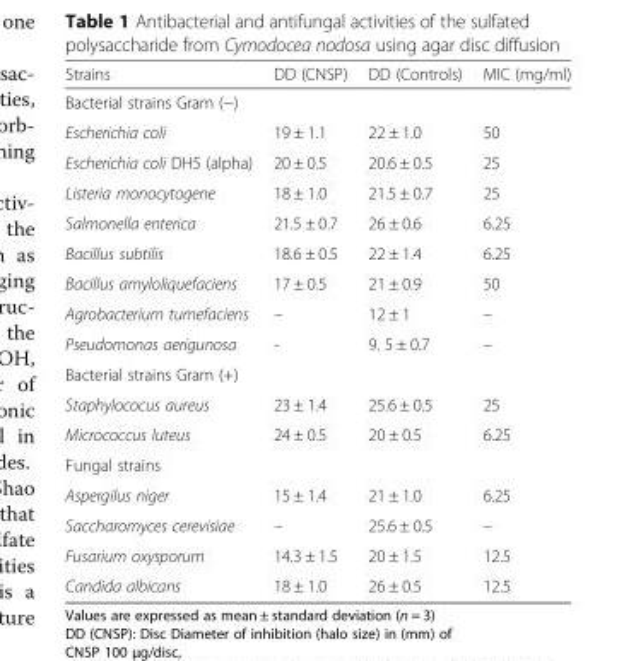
<table><thead><tr><td>Strains</td><td>DD (CNSP)</td><td>DD (Controls)</td><td>MIC (mg/ml)</td></tr></thead><tbody><tr><td colspan="4">Bacterial strains Gram (−)</td></tr><tr><td>Escherichia coli</td><td>19 ± 1.1</td><td>22 ± 1.0</td><td>50</td></tr><tr><td>Escherichia coli DH5 (alpha)</td><td>20 ± 0.5</td><td>20.6 ± 0.5</td><td>25</td></tr><tr><td>Listeria monocytogene</td><td>18 ± 1.0</td><td>21.5 ± 0.7</td><td>25</td></tr><tr><td>Salmonella enterica</td><td>21.5 ± 0.7</td><td>26 ± 0.6</td><td>6.25</td></tr><tr><td>Bacillus subtilis</td><td>18.6 ± 0.5</td><td>22 ± 1.4</td><td>6.25</td></tr><tr><td>Bacillus amyloliquefaciens</td><td>17 ± 0.5</td><td>21 ± 0.9</td><td>50</td></tr><tr><td>Agrobacterium tumefaciens</td><td>–</td><td>12 ± 1</td><td>–</td></tr><tr><td>Pseudomonas aerigunosa</td><td>-</td><td>9. 5 ± 0.7</td><td>–</td></tr><tr><td colspan="4">Bacterial strains Gram (+)</td></tr><tr><td>Staphylococus aureus</td><td>23 ± 1.4</td><td>25.6 ± 0.5</td><td>25</td></tr><tr><td>Micrococcus luteus</td><td>24 ± 0.5</td><td>20 ± 0.5</td><td>6.25</td></tr><tr><td colspan="4">Fungal strains</td></tr><tr><td>Aspergilus niger</td><td>15 ± 1.4</td><td>21 ± 1.0</td><td>6.25</td></tr><tr><td>Saccharomyces cerevisiae</td><td>–</td><td>25.6 ± 0.5</td><td>–</td></tr><tr><td>Fusarium oxysporum</td><td>14.3 ± 1.5</td><td>20 ± 1.5</td><td>12.5</td></tr><tr><td>Candida albicans</td><td>18 ± 1.0</td><td>26 ± 0.5</td><td>12.5</td></tr></tbody></table>